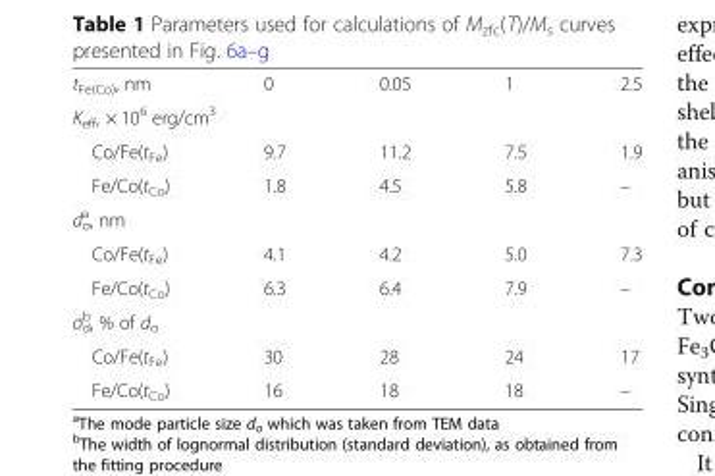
<table><tbody><tr><td>t<sub>Fe(Co)</sub>, nm</td><td>0</td><td>0.05</td><td>1</td><td>2.5</td></tr><tr><td colspan="5">K<sub>eff</sub>, × 10<sup>6</sup> erg/cm<sup>3</sup></td></tr><tr><td>Co/Fe(t<sub>Fe</sub>)</td><td>9.7</td><td>11.2</td><td>7.5</td><td>1.9</td></tr><tr><td>Fe/Co(t<sub>Co</sub>)</td><td>1.8</td><td>4.5</td><td>5.8</td><td>–</td></tr><tr><td colspan="5">d<sub>σ</sub> <sup>a</sup>, nm</td></tr><tr><td>Co/Fe(t<sub>Fe</sub>)</td><td>4.1</td><td>4.2</td><td>5.0</td><td>7.3</td></tr><tr><td>Fe/Co(t<sub>Co</sub>)</td><td>6.3</td><td>6.4</td><td>7.9</td><td>–</td></tr><tr><td colspan="5">σ<sub>d</sub> <sup>b</sup>, % of d<sub>σ</sub></td></tr><tr><td>Co/Fe(t<sub>Fe</sub>)</td><td>30</td><td>28</td><td>24</td><td>17</td></tr><tr><td>Fe/Co(t<sub>Co</sub>)</td><td>16</td><td>18</td><td>18</td><td>–</td></tr></tbody></table>